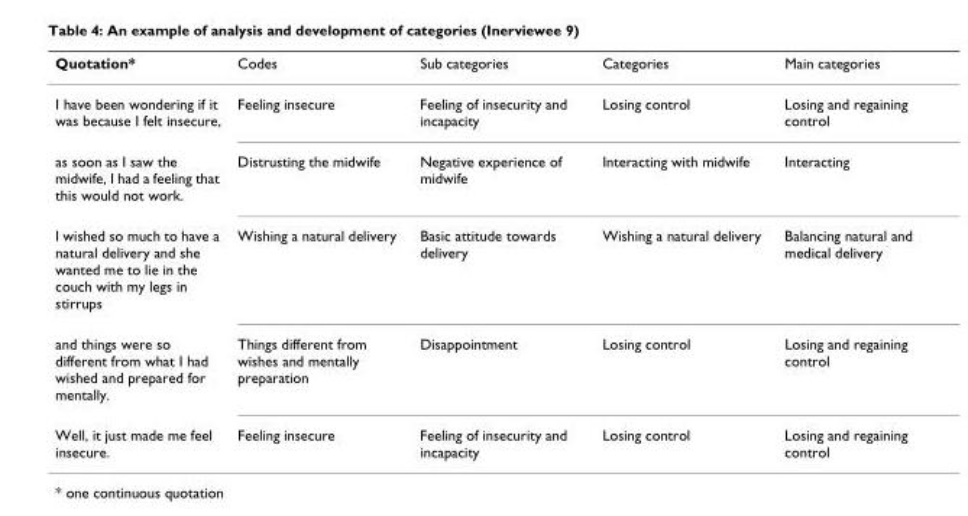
<table><thead><tr><td>Quotation*</td><td>Codes</td><td>Sub categories</td><td>Categories</td><td>Main categories</td></tr></thead><tbody><tr><td>I have been wondering if it was because I felt insecure,</td><td>Feeling insecure</td><td>Feeling of insecurity and incapacity</td><td>Losing control</td><td>Losing and regaining control</td></tr><tr><td>as soon as I saw the midwife, I had a feeling that this would not work.</td><td>Distrusting the midwife</td><td>Negative experience of midwife</td><td>Interacting with midwife</td><td>Interacting</td></tr><tr><td>I wished so much to have a natural delivery and she wanted me to lie in the couch with my legs in stirrups</td><td>Wishing a natural delivery</td><td>Basic attitude towards delivery</td><td>Wishing a natural delivery</td><td>Balancing natural and medical delivery</td></tr><tr><td>and things were so different from what I had wished and prepared for mentally.</td><td>Things different from wishes and mentally preparation</td><td>Disappointment</td><td>Losing control</td><td>Losing and regaining control</td></tr><tr><td>Well, it just made me feel insecure.</td><td>Feeling insecure</td><td>Feeling of insecurity and incapacity</td><td>Losing control</td><td>Losing and regaining control</td></tr></tbody></table>